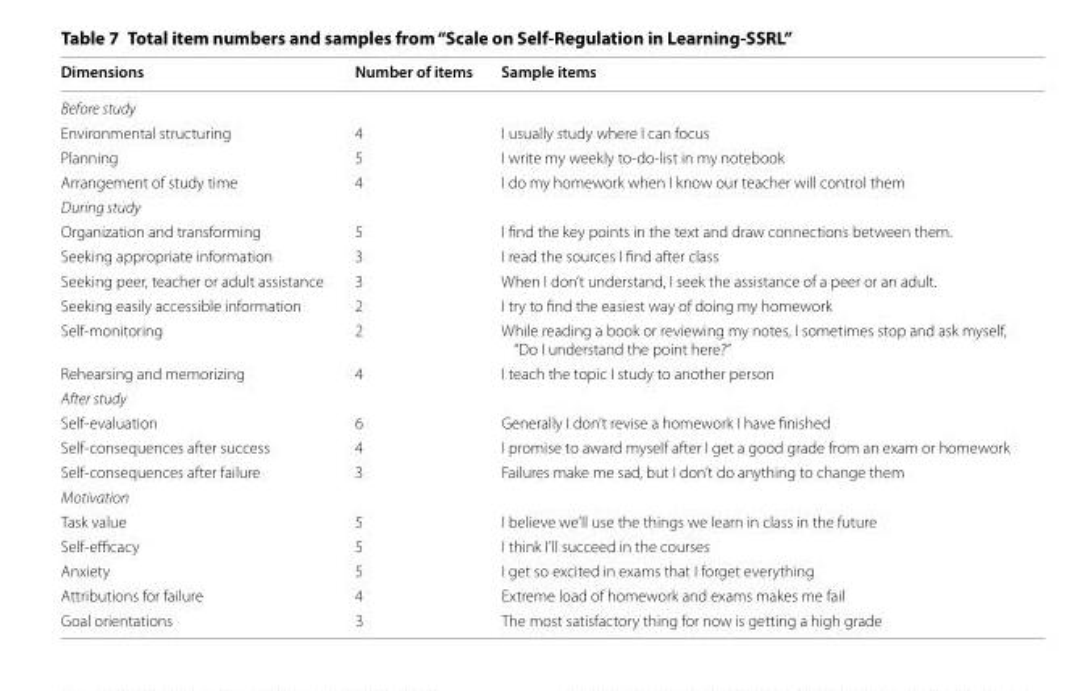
<table><thead><tr><td>Dimensions</td><td>Number of items</td><td>Sample items</td></tr></thead><tbody><tr><td colspan="3">Before study</td></tr><tr><td>Environmental structuring</td><td>4</td><td>I usually study where I can focus</td></tr><tr><td>Planning</td><td>5</td><td>I write my weekly to-do-list in my notebook</td></tr><tr><td>Arrangement of study time</td><td>4</td><td>I do my homework when I know our teacher will control them</td></tr><tr><td colspan="3">During study</td></tr><tr><td>Organization and transforming</td><td>5</td><td>I find the key points in the text and draw connections between them.</td></tr><tr><td>Seeking appropriate information</td><td>3</td><td>I read the sources I find after class</td></tr><tr><td>Seeking peer, teacher or adult assistance</td><td>3</td><td>When I don’t understand, I seek the assistance of a peer or an adult.</td></tr><tr><td>Seeking easily accessible information</td><td>2</td><td>I try to find the easiest way of doing my homework</td></tr><tr><td>Self-monitoring</td><td>2</td><td>While reading a book or reviewing my notes, I sometimes stop and ask myself, “Do I understand the point here?”</td></tr><tr><td>Rehearsing and memorizing</td><td>4</td><td>I teach the topic I study to another person</td></tr><tr><td colspan="3">After study</td></tr><tr><td>Self-evaluation</td><td>6</td><td>Generally I don’t revise a homework I have finished</td></tr><tr><td>Self-consequences after success</td><td>4</td><td>I promise to award myself after I get a good grade from an exam or homework</td></tr><tr><td>Self-consequences after failure</td><td>3</td><td>Failures make me sad, but I don’t do anything to change them</td></tr><tr><td colspan="3">Motivation</td></tr><tr><td>Task value</td><td>5</td><td>I believe we’ll use the things we learn in class in the future</td></tr><tr><td>Self-efficacy</td><td>5</td><td>I think I’ll succeed in the courses</td></tr><tr><td>Anxiety</td><td>5</td><td>I get so excited in exams that I forget everything</td></tr><tr><td>Attributions for failure</td><td>4</td><td>Extreme load of homework and exams makes me fail</td></tr><tr><td>Goal orientations</td><td>3</td><td>The most satisfactory thing for now is getting a high grade</td></tr></tbody></table>